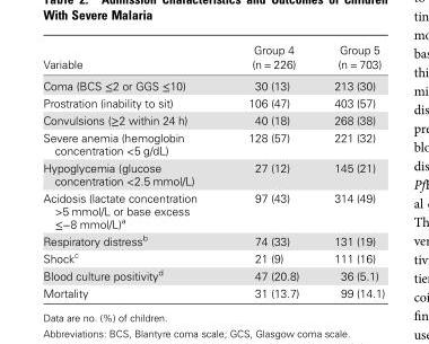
<table><thead><tr><td>Variable</td><td>Group 4 (n = 226)</td><td>Group 5 (n = 703)</td></tr></thead><tbody><tr><td>Coma (BCS ≤2 or GGS ≤10)</td><td>30 (13)</td><td>213 (30)</td></tr><tr><td>Prostration (inability to sit)</td><td>106 (47)</td><td>403 (57)</td></tr><tr><td>Convulsions (≥2 within 24 h)</td><td>40 (18)</td><td>268 (38)</td></tr><tr><td>Severe anemia (hemoglobin concentration &lt;5 g/dL)</td><td>128 (57)</td><td>221 (32)</td></tr><tr><td>Hypoglycemia (glucose concentration &lt;2.5 mmol/L)</td><td>27 (12)</td><td>145 (21)</td></tr><tr><td>Acidosis (lactate concentration &gt;5 mmol/L or base excess ≤−8 mmol/L)<sup>a</sup></td><td>97 (43)</td><td>314 (49)</td></tr><tr><td>Respiratory distress<sup>b</sup></td><td>74 (33)</td><td>131 (19)</td></tr><tr><td>Shock<sup>c</sup></td><td>21 (9)</td><td>111 (16)</td></tr><tr><td>Blood culture positivity<sup>d</sup></td><td>47 (20.8)</td><td>36 (5.1)</td></tr><tr><td>Mortality</td><td>31 (13.7)</td><td>99 (14.1)</td></tr></tbody></table>